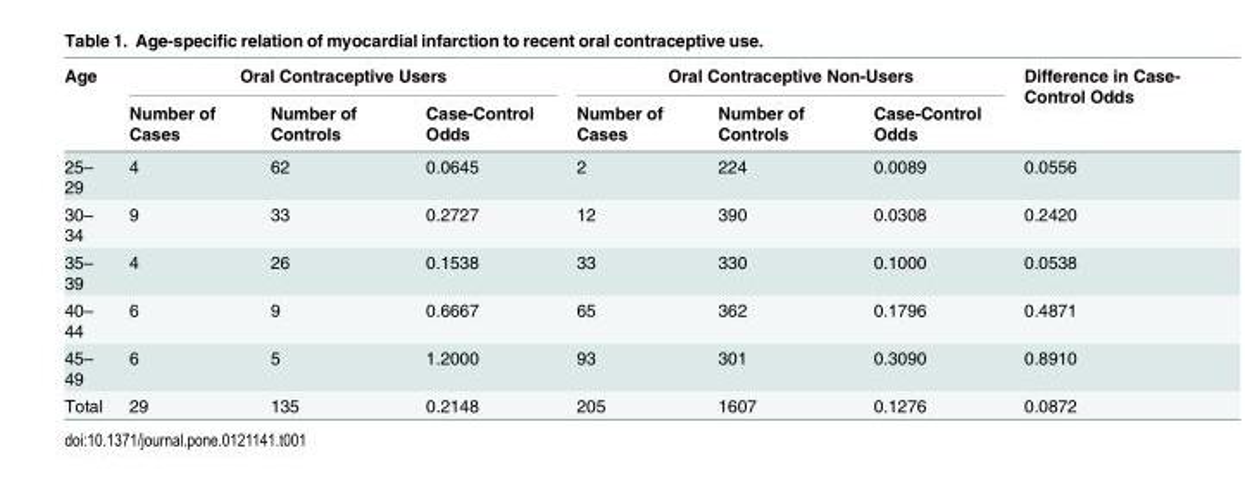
<table><thead><tr><td rowspan="2">Age</td><td colspan="3">Oral Contraceptive Users</td><td colspan="3">Oral Contraceptive Non-Users</td><td rowspan="2">Difference in Case- Control Odds</td></tr><tr><td>Number of Cases</td><td>Number of Controls</td><td>Case-Control Odds</td><td>Number of Cases</td><td>Number of Controls</td><td>Case-Control Odds</td></tr></thead><tbody><tr><td>25– 29</td><td>4</td><td>62</td><td>0.0645</td><td>2</td><td>224</td><td>0.0089</td><td>0.0556</td></tr><tr><td>30– 34</td><td>9</td><td>33</td><td>0.2727</td><td>12</td><td>390</td><td>0.0308</td><td>0.2420</td></tr><tr><td>35– 39</td><td>4</td><td>26</td><td>0.1538</td><td>33</td><td>330</td><td>0.1000</td><td>0.0538</td></tr><tr><td>40– 44</td><td>6</td><td>9</td><td>0.6667</td><td>65</td><td>362</td><td>0.1796</td><td>0.4871</td></tr><tr><td>45– 49</td><td>6</td><td>5</td><td>1.2000</td><td>93</td><td>301</td><td>0.3090</td><td>0.8910</td></tr><tr><td>Total</td><td>29</td><td>135</td><td>0.2148</td><td>205</td><td>1607</td><td>0.1276</td><td>0.0872</td></tr></tbody></table>